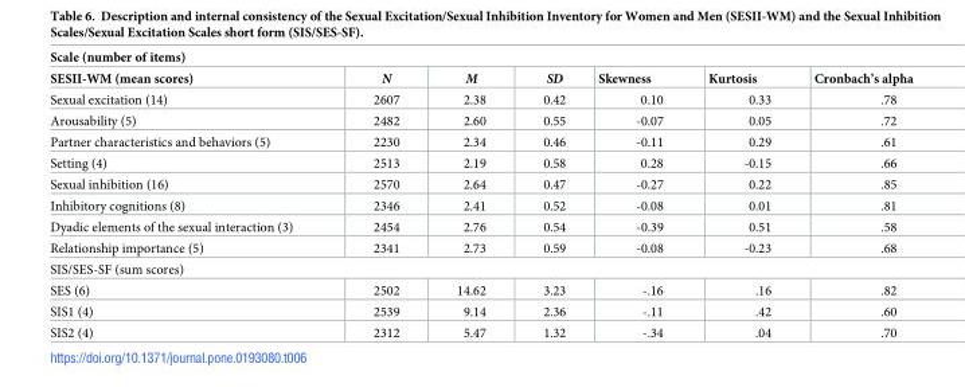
<table><thead><tr><td colspan="7">Scale (number of items)</td></tr><tr><td>SESII-WM (mean scores)</td><td>N</td><td>M</td><td>SD</td><td>Skewness</td><td>Kurtosis</td><td>Cronbach’s alpha</td></tr></thead><tbody><tr><td>Sexual excitation (14)</td><td>2607</td><td>2.38</td><td>0.42</td><td>0.10</td><td>0.33</td><td>.78</td></tr><tr><td>Arousability (5)</td><td>2482</td><td>2.60</td><td>0.55</td><td>-0.07</td><td>0.05</td><td>.72</td></tr><tr><td>Partner characteristics and behaviors (5)</td><td>2230</td><td>2.34</td><td>0.46</td><td>-0.11</td><td>0.29</td><td>.61</td></tr><tr><td>Setting (4)</td><td>2513</td><td>2.19</td><td>0.58</td><td>0.28</td><td>-0.15</td><td>.66</td></tr><tr><td>Sexual inhibition (16)</td><td>2570</td><td>2.64</td><td>0.47</td><td>-0.27</td><td>0.22</td><td>.85</td></tr><tr><td>Inhibitory cognitions (8)</td><td>2346</td><td>2.41</td><td>0.52</td><td>-0.08</td><td>0.01</td><td>.81</td></tr><tr><td>Dyadic elements of the sexual interaction (3)</td><td>2454</td><td>2.76</td><td>0.54</td><td>-0.39</td><td>0.51</td><td>.58</td></tr><tr><td>Relationship importance (5)</td><td>2341</td><td>2.73</td><td>0.59</td><td>-0.08</td><td>-0.23</td><td>.68</td></tr><tr><td colspan="7">SIS/SES-SF (sum scores)</td></tr><tr><td>SES (6)</td><td>2502</td><td>14.62</td><td>3.23</td><td>-.16</td><td>.16</td><td>.82</td></tr><tr><td>SIS1 (4)</td><td>2539</td><td>9.14</td><td>2.36</td><td>-.11</td><td>.42</td><td>.60</td></tr><tr><td>SIS2 (4)</td><td>2312</td><td>5.47</td><td>1.32</td><td>-.34</td><td>.04</td><td>.70</td></tr></tbody></table>